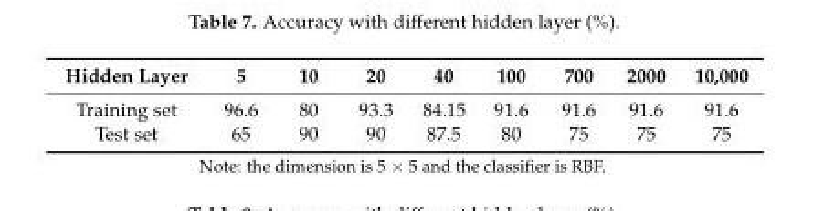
<table><thead><tr><td>Hidden Layer</td><td>5</td><td>10</td><td>20</td><td>40</td><td>100</td><td>700</td><td>2000</td><td>10,000</td></tr></thead><tbody><tr><td>Training set</td><td>96.6</td><td>80</td><td>93.3</td><td>84.15</td><td>91.6</td><td>91.6</td><td>91.6</td><td>91.6</td></tr><tr><td>Test set</td><td>65</td><td>90</td><td>90</td><td>87.5</td><td>80</td><td>75</td><td>75</td><td>75</td></tr></tbody></table>